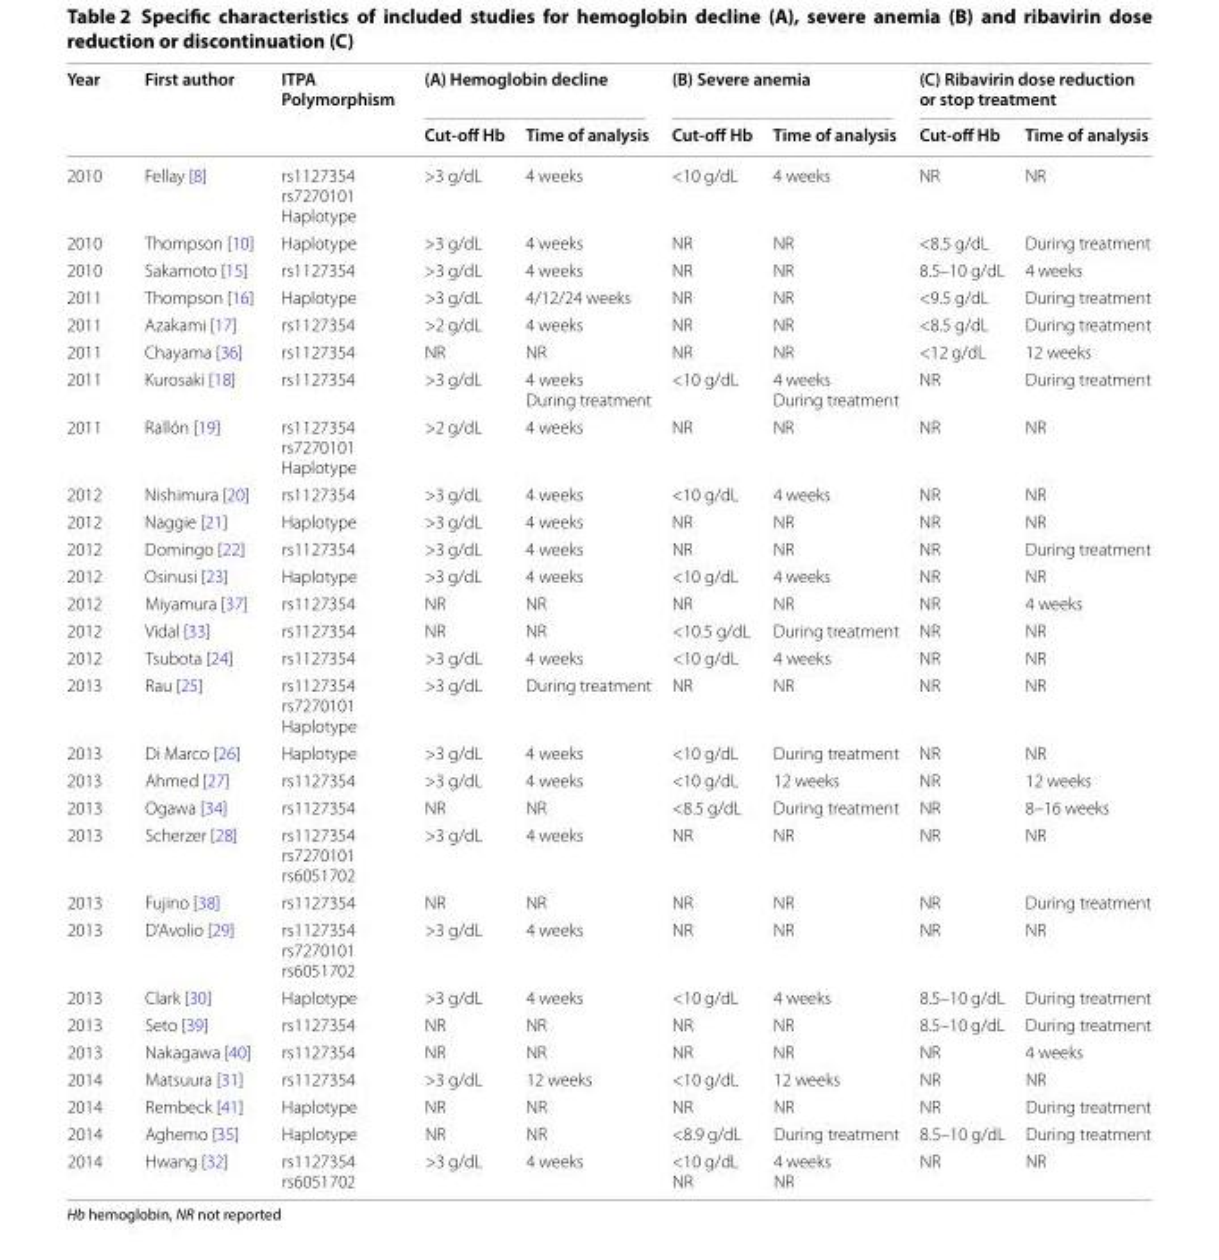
<table><thead><tr><td rowspan="2">Year</td><td rowspan="2">First author</td><td rowspan="2">ITPA Polymorphism</td><td colspan="2">(A) Hemoglobin decline</td><td colspan="2">(B) Severe anemia</td><td colspan="2">(C) Ribavirin dose reduction or stop treatment</td></tr><tr><td>Cut-off Hb</td><td>Time of analysis</td><td>Cut-off Hb</td><td>Time of analysis</td><td>Cut-off Hb</td><td>Time of analysis</td></tr></thead><tbody><tr><td>2010</td><td>Fellay [8]</td><td>rs1127354 rs7270101 Haplotype</td><td>&gt;3 g/dL</td><td>4 weeks</td><td>&lt;10 g/dL</td><td>4 weeks</td><td>NR</td><td>NR</td></tr><tr><td>2010</td><td>Thompson [10]</td><td>Haplotype</td><td>&gt;3 g/dL</td><td>4 weeks</td><td>NR</td><td>NR</td><td>&lt;8.5 g/dL</td><td>During treatment</td></tr><tr><td>2010</td><td>Sakamoto [15]</td><td>rs1127354</td><td>&gt;3 g/dL</td><td>4 weeks</td><td>NR</td><td>NR</td><td>8.5–10 g/dL</td><td>4 weeks</td></tr><tr><td>2011</td><td>Thompson [16]</td><td>Haplotype</td><td>&gt;3 g/dL</td><td>4/12/24 weeks</td><td>NR</td><td>NR</td><td>&lt;9.5 g/dL</td><td>During treatment</td></tr><tr><td>2011</td><td>Azakami [17]</td><td>rs1127354</td><td>&gt;2 g/dL</td><td>4 weeks</td><td>NR</td><td>NR</td><td>&lt;8.5 g/dL</td><td>During treatment</td></tr><tr><td>2011</td><td>Chayama [36]</td><td>rs1127354</td><td>NR</td><td>NR</td><td>NR</td><td>NR</td><td>&lt;12 g/dL</td><td>12 weeks</td></tr><tr><td>2011</td><td>Kurosaki [18]</td><td>rs1127354</td><td>&gt;3 g/dL</td><td>4 weeks During treatment</td><td>&lt;10 g/dL</td><td>4 weeks During treatment</td><td>NR</td><td>During treatment</td></tr><tr><td>2011</td><td>Rallón [19]</td><td>rs1127354 rs7270101 Haplotype</td><td>&gt;2 g/dL</td><td>4 weeks</td><td>NR</td><td>NR</td><td>NR</td><td>NR</td></tr><tr><td>2012</td><td>Nishimura [20]</td><td>rs1127354</td><td>&gt;3 g/dL</td><td>4 weeks</td><td>&lt;10 g/dL</td><td>4 weeks</td><td>NR</td><td>NR</td></tr><tr><td>2012</td><td>Naggie [21]</td><td>Haplotype</td><td>&gt;3 g/dL</td><td>4 weeks</td><td>NR</td><td>NR</td><td>NR</td><td>NR</td></tr><tr><td>2012</td><td>Domingo [22]</td><td>rs1127354</td><td>&gt;3 g/dL</td><td>4 weeks</td><td>NR</td><td>NR</td><td>NR</td><td>During treatment</td></tr><tr><td>2012</td><td>Osinusi [23]</td><td>Haplotype</td><td>&gt;3 g/dL</td><td>4 weeks</td><td>&lt;10 g/dL</td><td>4 weeks</td><td>NR</td><td>NR</td></tr><tr><td>2012</td><td>Miyamura [37]</td><td>rs1127354</td><td>NR</td><td>NR</td><td>NR</td><td>NR</td><td>NR</td><td>4 weeks</td></tr><tr><td>2012</td><td>Vidal [33]</td><td>rs1127354</td><td>NR</td><td>NR</td><td>&lt;10.5 g/dL</td><td>During treatment</td><td>NR</td><td>NR</td></tr><tr><td>2012</td><td>Tsubota [24]</td><td>rs1127354</td><td>&gt;3 g/dL</td><td>4 weeks</td><td>&lt;10 g/dL</td><td>4 weeks</td><td>NR</td><td>NR</td></tr><tr><td>2013</td><td>Rau [25]</td><td>rs1127354 rs7270101 Haplotype</td><td>&gt;3 g/dL</td><td>During treatment</td><td>NR</td><td>NR</td><td>NR</td><td>NR</td></tr><tr><td>2013</td><td>Di Marco [26]</td><td>Haplotype</td><td>&gt;3 g/dL</td><td>4 weeks</td><td>&lt;10 g/dL</td><td>During treatment</td><td>NR</td><td>NR</td></tr><tr><td>2013</td><td>Ahmed [27]</td><td>rs1127354</td><td>&gt;3 g/dL</td><td>4 weeks</td><td>&lt;10 g/dL</td><td>12 weeks</td><td>NR</td><td>12 weeks</td></tr><tr><td>2013</td><td>Ogawa [34]</td><td>rs1127354</td><td>NR</td><td>NR</td><td>&lt;8.5 g/dL</td><td>During treatment</td><td>NR</td><td>8–16 weeks</td></tr><tr><td>2013</td><td>Scherzer [28]</td><td>rs1127354 rs7270101 rs6051702</td><td>&gt;3 g/dL</td><td>4 weeks</td><td>NR</td><td>NR</td><td>NR</td><td>NR</td></tr><tr><td>2013</td><td>Fujino [38]</td><td>rs1127354</td><td>NR</td><td>NR</td><td>NR</td><td>NR</td><td>NR</td><td>During treatment</td></tr><tr><td>2013</td><td>D’Avolio [29]</td><td>rs1127354 rs7270101 rs6051702</td><td>&gt;3 g/dL</td><td>4 weeks</td><td>NR</td><td>NR</td><td>NR</td><td>NR</td></tr><tr><td>2013</td><td>Clark [30]</td><td>Haplotype</td><td>&gt;3 g/dL</td><td>4 weeks</td><td>&lt;10 g/dL</td><td>4 weeks</td><td>8.5–10 g/dL</td><td>During treatment</td></tr><tr><td>2013</td><td>Seto [39]</td><td>rs1127354</td><td>NR</td><td>NR</td><td>NR</td><td>NR</td><td>8.5–10 g/dL</td><td>During treatment</td></tr><tr><td>2013</td><td>Nakagawa [40]</td><td>rs1127354</td><td>NR</td><td>NR</td><td>NR</td><td>NR</td><td>NR</td><td>4 weeks</td></tr><tr><td>2014</td><td>Matsuura [31]</td><td>rs1127354</td><td>&gt;3 g/dL</td><td>12 weeks</td><td>&lt;10 g/dL</td><td>12 weeks</td><td>NR</td><td>NR</td></tr><tr><td>2014</td><td>Rembeck [41]</td><td>Haplotype</td><td>NR</td><td>NR</td><td>NR</td><td>NR</td><td>NR</td><td>During treatment</td></tr><tr><td>2014</td><td>Aghemo [35]</td><td>Haplotype</td><td>NR</td><td>NR</td><td>&lt;8.9 g/dL</td><td>During treatment</td><td>8.5–10 g/dL</td><td>During treatment</td></tr><tr><td>2014</td><td>Hwang [32]</td><td>rs1127354 rs6051702</td><td>&gt;3 g/dL</td><td>4 weeks</td><td>&lt;10 g/dL NR</td><td>4 weeks NR</td><td>NR</td><td>NR</td></tr></tbody></table>